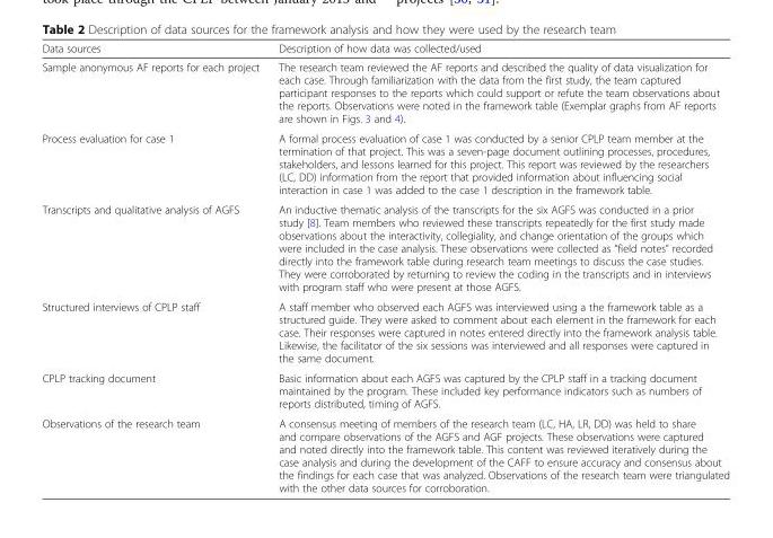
<table><thead><tr><td>Data sources</td><td>Description of how data was collected/used</td></tr></thead><tbody><tr><td>Sample anonymous AF reports for each project</td><td>The research team reviewed the AF reports and described the quality of data visualization for each case. Through familiarization with the data from the first study, the team captured participant responses to the reports which could support or refute the team observations about the reports. Observations were noted in the framework table (Exemplar graphs from AF reports are shown in Figs. 3 and 4).</td></tr><tr><td>Process evaluation for case 1</td><td>A formal process evaluation of case 1 was conducted by a senior CPLP team member at the termination of that project. This was a seven-page document outlining processes, procedures, stakeholders, and lessons learned for this project. This report was reviewed by the researchers (LC, DD) information from the report that provided information about influencing social interaction in case 1 was added to the case 1 description in the framework table.</td></tr><tr><td>Transcripts and qualitative analysis of AGFS</td><td>An inductive thematic analysis of the transcripts for the six AGFS was conducted in a prior study [8]. Team members who reviewed these transcripts repeatedly for the first study made observations about the interactivity, collegiality, and change orientation of the groups which were included in the case analysis. These observations were collected as “field notes” recorded directly into the framework table during research team meetings to discuss the case studies. They were corroborated by returning to review the coding in the transcripts and in interviews with program staff who were present at those AGFS.</td></tr><tr><td>Structured interviews of CPLP staff</td><td>A staff member who observed each AGFS was interviewed using a the framework table as a structured guide. They were asked to comment about each element in the framework for each case. Their responses were captured in notes entered directly into the framework analysis table. Likewise, the facilitator of the six sessions was interviewed and all responses were captured in the same document.</td></tr><tr><td>CPLP tracking document</td><td>Basic information about each AGFS was captured by the CPLP staff in a tracking document maintained by the program. These included key performance indicators such as numbers of reports distributed, timing of AGFS.</td></tr><tr><td>Observations of the research team</td><td>A consensus meeting of members of the research team (LC, HA, LR, DD) was held to share and compare observations of the AGFS and AGF projects. These observations were captured and noted directly into the framework table. This content was reviewed iteratively during the case analysis and during the development of the CAFF to ensure accuracy and consensus about the findings for each case that was analyzed. Observations of the research team were triangulated with the other data sources for corroboration.</td></tr></tbody></table>